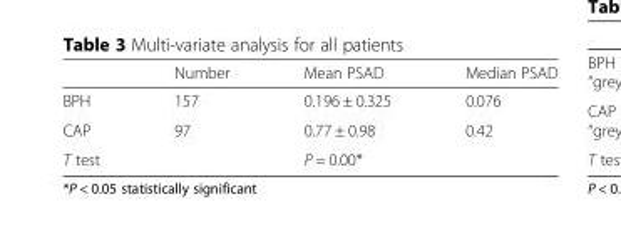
<table><thead><tr><td></td><td>Number</td><td>Mean PSAD</td><td>Median PSAD</td></tr></thead><tbody><tr><td>BPH</td><td>157</td><td>0.196 ± 0.325</td><td>0.076</td></tr><tr><td>CAP</td><td>97</td><td>0.77 ± 0.98</td><td>0.42</td></tr><tr><td>T test</td><td></td><td>P = 0.00*</td><td></td></tr></tbody></table>